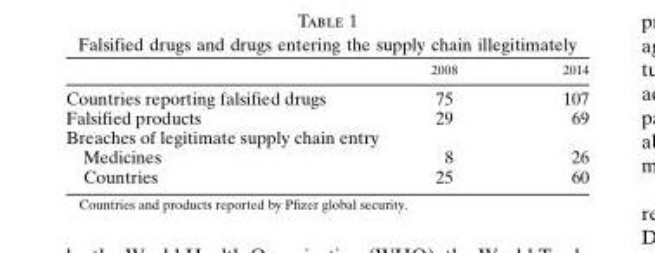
<table><thead><tr><td></td><td>2008</td><td>2014</td></tr></thead><tbody><tr><td>Countries reporting falsified drugs</td><td>75</td><td>107</td></tr><tr><td>Falsified products</td><td>29</td><td>69</td></tr><tr><td colspan="3">Breaches of legitimate supply chain entry</td></tr><tr><td>Medicines</td><td>8</td><td>26</td></tr><tr><td>Countries</td><td>25</td><td>60</td></tr></tbody></table>